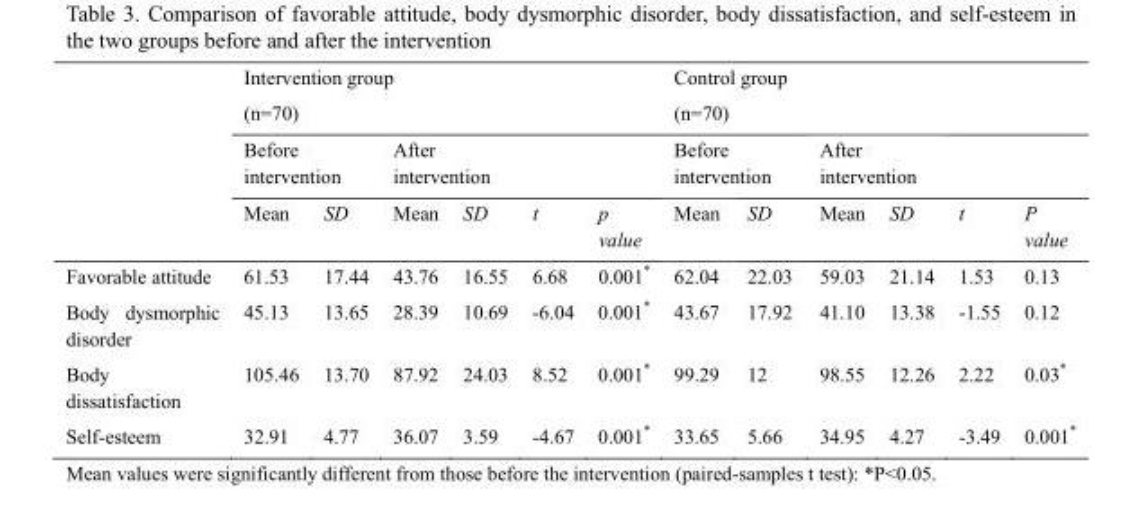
<table><thead><tr><td rowspan="3"></td><td colspan="6">Intervention group (n=70)</td><td colspan="6">Control group (n=70)</td></tr><tr><td colspan="2">Before intervention</td><td colspan="4">After intervention</td><td colspan="2">Before intervention</td><td colspan="4">After intervention</td></tr><tr><td>Mean</td><td>SD</td><td>Mean</td><td>SD</td><td>t</td><td>p value</td><td>Mean</td><td>SD</td><td>Mean</td><td>SD</td><td>t</td><td>P value</td></tr></thead><tbody><tr><td>Favorable attitude</td><td>61.53</td><td>17.44</td><td>43.76</td><td>16.55</td><td>6.68</td><td>0.001*</td><td>62.04</td><td>22.03</td><td>59.03</td><td>21.14</td><td>1.53</td><td>0.13</td></tr><tr><td>Body dysmorphic disorder</td><td>45.13</td><td>13.65</td><td>28.39</td><td>10.69</td><td>-6.04</td><td>0.001*</td><td>43.67</td><td>17.92</td><td>41.10</td><td>13.38</td><td>-1.55</td><td>0.12</td></tr><tr><td>Body dissatisfaction</td><td>105.46</td><td>13.70</td><td>87.92</td><td>24.03</td><td>8.52</td><td>0.001*</td><td>99.29</td><td>12</td><td>98.55</td><td>12.26</td><td>2.22</td><td>0.03*</td></tr><tr><td>Self-esteem</td><td>32.91</td><td>4.77</td><td>36.07</td><td>3.59</td><td>-4.67</td><td>0.001*</td><td>33.65</td><td>5.66</td><td>34.95</td><td>4.27</td><td>-3.49</td><td>0.001*</td></tr></tbody></table>